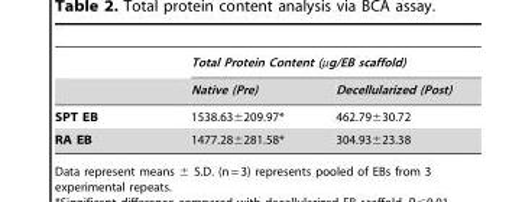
<table><thead><tr><td rowspan="2"></td><td colspan="2">Total Protein Content (µg/EB scaffold)</td></tr><tr><td>Native (Pre)</td><td>Decellularized (Post)</td></tr></thead><tbody><tr><td>SPT EB</td><td>1538.63±209.97*</td><td>462.79±30.72</td></tr><tr><td>RA EB</td><td>1477.28±281.58*</td><td>304.93±23.38</td></tr></tbody></table>